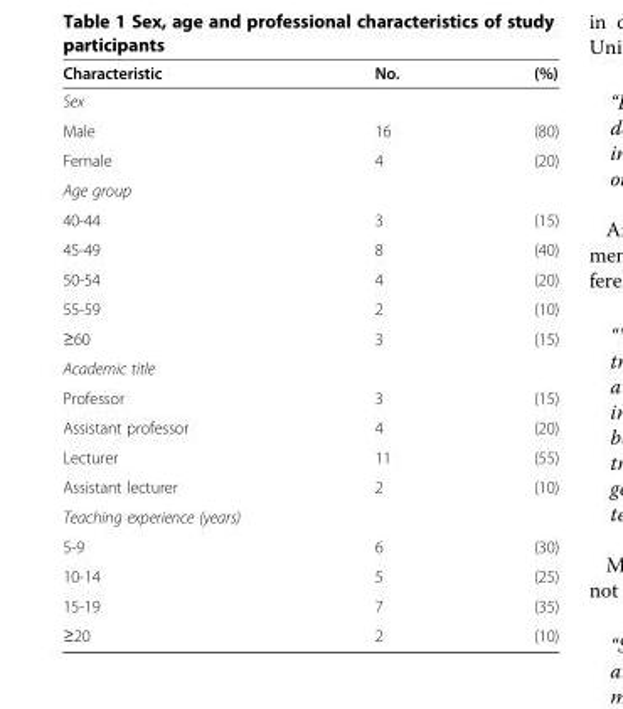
<table><thead><tr><td>Characteristic</td><td>No.</td><td>(%)</td></tr></thead><tbody><tr><td colspan="3">Sex</td></tr><tr><td>Male</td><td>16</td><td>(80)</td></tr><tr><td>Female</td><td>4</td><td>(20)</td></tr><tr><td colspan="3">Age group</td></tr><tr><td>40-44</td><td>3</td><td>(15)</td></tr><tr><td>45-49</td><td>8</td><td>(40)</td></tr><tr><td>50-54</td><td>4</td><td>(20)</td></tr><tr><td>55-59</td><td>2</td><td>(10)</td></tr><tr><td>≥60</td><td>3</td><td>(15)</td></tr><tr><td colspan="3">Academic title</td></tr><tr><td>Professor</td><td>3</td><td>(15)</td></tr><tr><td>Assistant professor</td><td>4</td><td>(20)</td></tr><tr><td>Lecturer</td><td>11</td><td>(55)</td></tr><tr><td>Assistant lecturer</td><td>2</td><td>(10)</td></tr><tr><td colspan="3">Teaching experience (years)</td></tr><tr><td>5-9</td><td>6</td><td>(30)</td></tr><tr><td>10-14</td><td>5</td><td>(25)</td></tr><tr><td>15-19</td><td>7</td><td>(35)</td></tr><tr><td>≥20</td><td>2</td><td>(10)</td></tr></tbody></table>